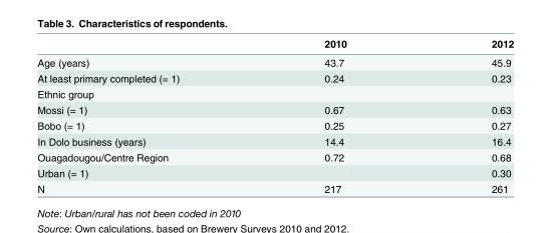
<table><thead><tr><td></td><td>2010</td><td>2012</td></tr></thead><tbody><tr><td>Age (years)</td><td>43.7</td><td>45.9</td></tr><tr><td>At least primary completed (= 1)</td><td>0.24</td><td>0.23</td></tr><tr><td colspan="3">Ethnic group</td></tr><tr><td>Mossi (= 1)</td><td>0.67</td><td>0.63</td></tr><tr><td>Bobo (= 1)</td><td>0.25</td><td>0.27</td></tr><tr><td>In Dolo business (years)</td><td>14.4</td><td>16.4</td></tr><tr><td>Ouagadougou/Centre Region</td><td>0.72</td><td>0.68</td></tr><tr><td>Urban (= 1)</td><td></td><td>0.30</td></tr><tr><td>N</td><td>217</td><td>261</td></tr></tbody></table>